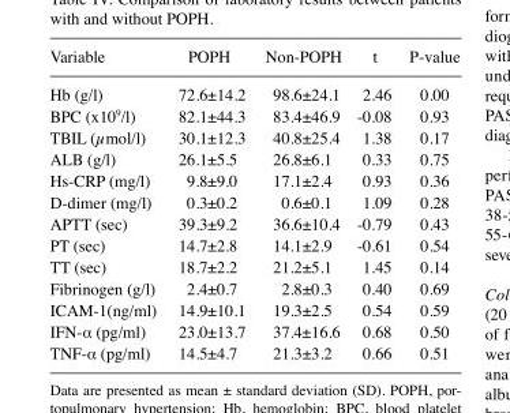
<table><thead><tr><td>Variable</td><td>POPH</td><td>Non-POPH</td><td>t</td><td>P-value</td></tr></thead><tbody><tr><td>Hb (g/l)</td><td>72.6±14.2</td><td>98.6±24.1</td><td>2.46</td><td>0.00</td></tr><tr><td>BPC (x109/l)</td><td>82.1±44.3</td><td>83.4±46.9</td><td>-0.08</td><td>0.93</td></tr><tr><td>TBIL (µmol/l)</td><td>30.1±12.3</td><td>40.8±25.4</td><td>1.38</td><td>0.17</td></tr><tr><td>ALB (g/l)</td><td>26.1±5.5</td><td>26.8±6.1</td><td>0.33</td><td>0.75</td></tr><tr><td>Hs-CRP (mg/l)</td><td>9.8±9.0</td><td>17.1±2.4</td><td>0.93</td><td>0.36</td></tr><tr><td>D-dimer (mg/l)</td><td>0.3±0.2</td><td>0.6±0.1</td><td>1.09</td><td>0.28</td></tr><tr><td>APTT (sec)</td><td>39.3±9.2</td><td>36.6±10.4</td><td>-0.79</td><td>0.43</td></tr><tr><td>PT (sec)</td><td>14.7±2.8</td><td>14.1±2.9</td><td>-0.61</td><td>0.54</td></tr><tr><td>TT (sec)</td><td>18.7±2.2</td><td>21.2±5.1</td><td>1.45</td><td>0.14</td></tr><tr><td>Fibrinogen (g/l)</td><td>2.4±0.7</td><td>2.8±0.3</td><td>0.40</td><td>0.69</td></tr><tr><td>ICAM-1(ng/ml)</td><td>14.9±10.1</td><td>19.3±2.5</td><td>0.54</td><td>0.59</td></tr><tr><td>IFN-α (pg/ml)</td><td>23.0±13.7</td><td>37.4±16.6</td><td>0.68</td><td>0.50</td></tr><tr><td>TNF-α (pg/ml)</td><td>14.5±4.7</td><td>21.3±3.2</td><td>0.66</td><td>0.51</td></tr></tbody></table>